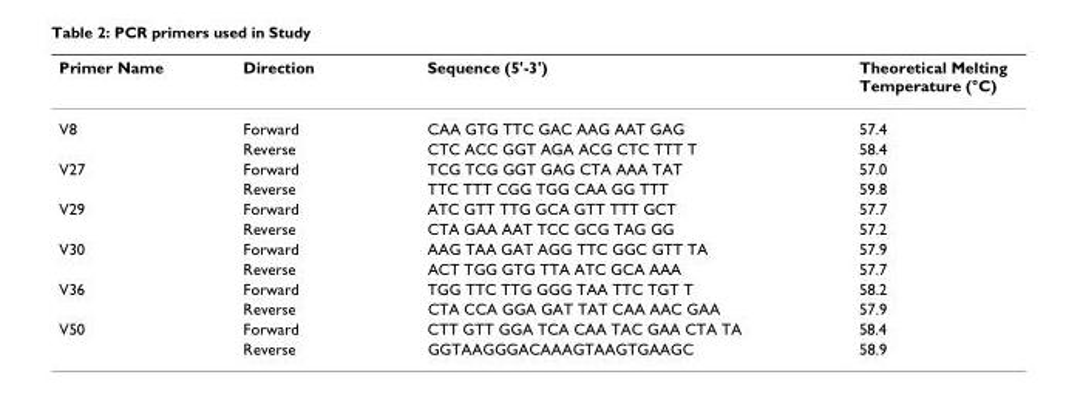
<table><thead><tr><td>Primer Name</td><td>Direction</td><td>Sequence (5&#x27;-3&#x27;)</td><td>Theoretical Melting Temperature (°C)</td></tr></thead><tbody><tr><td rowspan="2">V8</td><td>Forward</td><td>CAA GTG TTC GAC AAG AAT GAG</td><td>57.4</td></tr><tr><td>Reverse</td><td>CTC ACC GGT AGA ACG CTC TTT T</td><td>58.4</td></tr><tr><td rowspan="2">V27</td><td>Forward</td><td>TCG TCG GGT GAG CTA AAA TAT</td><td>57.0</td></tr><tr><td>Reverse</td><td>TTC TTT CGG TGG CAA GG TTT</td><td>59.8</td></tr><tr><td rowspan="2">V29</td><td>Forward</td><td>ATC GTT TTG GCA GTT TTT GCT</td><td>57.7</td></tr><tr><td>Reverse</td><td>CTA GAA AAT TCC GCG TAG GG</td><td>57.2</td></tr><tr><td rowspan="2">V30</td><td>Forward</td><td>AAG TAA GAT AGG TTC GGC GTT TA</td><td>57.9</td></tr><tr><td>Reverse</td><td>ACT TGG GTG TTA ATC GCA AAA</td><td>57.7</td></tr><tr><td rowspan="2">V36</td><td>Forward</td><td>TGG TTC TTG GGG TAA TTC TGT T</td><td>58.2</td></tr><tr><td>Reverse</td><td>CTA CCA GGA GAT TAT CAA AAC GAA</td><td>57.9</td></tr><tr><td rowspan="2">V50</td><td>Forward</td><td>CTT GTT GGA TCA CAA TAC GAA CTA TA</td><td>58.4</td></tr><tr><td>Reverse</td><td>GGTAAGGGACAAAGTAAGTGAAGC</td><td>58.9</td></tr></tbody></table>